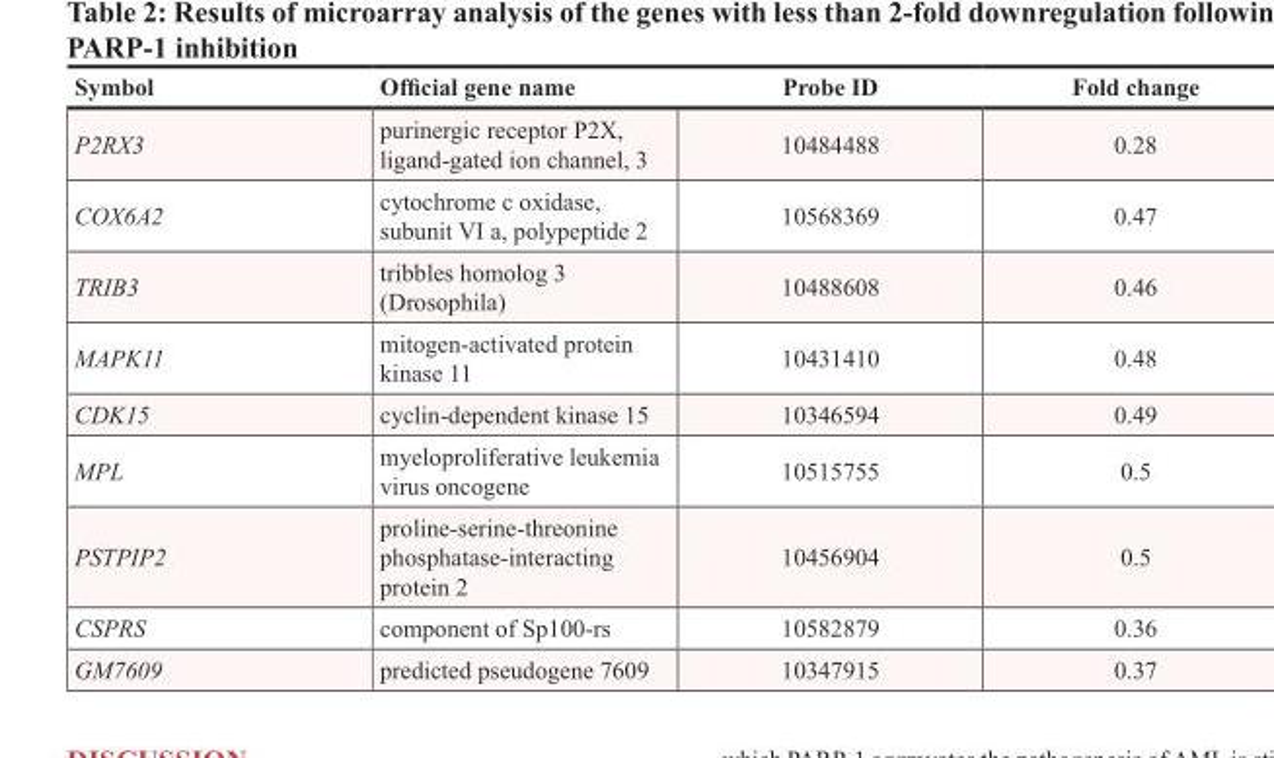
<table><thead><tr><td>Symbol</td><td>Official gene name</td><td>Probe ID</td><td>Fold change</td></tr></thead><tbody><tr><td>P2RX3</td><td>purinergic receptor P2X, ligand-gated ion channel, 3</td><td>10484488</td><td>0.28</td></tr><tr><td>COX6A2</td><td>cytochrome c oxidase, subunit VI a, polypeptide 2</td><td>10568369</td><td>0.47</td></tr><tr><td>TRIB3</td><td>tribbles homolog 3 (Drosophila)</td><td>10488608</td><td>0.46</td></tr><tr><td>MAPK11</td><td>mitogen-activated protein kinase 11</td><td>10431410</td><td>0.48</td></tr><tr><td>CDK15</td><td>cyclin-dependent kinase 15</td><td>10346594</td><td>0.49</td></tr><tr><td>MPL</td><td>myeloproliferative leukemia virus oncogene</td><td>10515755</td><td>0.5</td></tr><tr><td>PSTPIP2</td><td>proline-serine-threonine phosphatase-interacting protein 2</td><td>10456904</td><td>0.5</td></tr><tr><td>CSPRS</td><td>component of Sp100-rs</td><td>10582879</td><td>0.36</td></tr><tr><td>GM7609</td><td>predicted pseudogene 7609</td><td>10347915</td><td>0.37</td></tr></tbody></table>